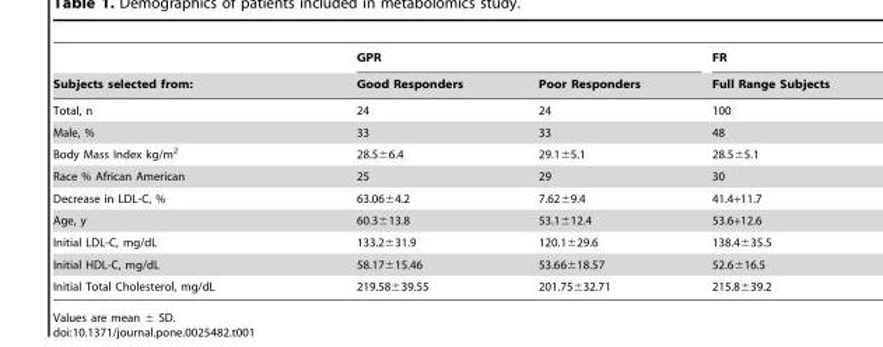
<table><thead><tr><td rowspan="2">Subjects selected from:</td><td colspan="2">GPR</td><td rowspan="2">FR Full Range Subjects</td></tr><tr><td>Good Responders</td><td>Poor Responders</td></tr></thead><tbody><tr><td>Total, n</td><td>24</td><td>24</td><td>100</td></tr><tr><td>Male, %</td><td>33</td><td>33</td><td>48</td></tr><tr><td>Body Mass Index kg/m<sup>2</sup></td><td>28.5±6.4</td><td>29.1±5.1</td><td>28.5±5.1</td></tr><tr><td>Race % African American</td><td>25</td><td>29</td><td>30</td></tr><tr><td>Decrease in LDL-C, %</td><td>63.06±4.2</td><td>7.62±9.4</td><td>41.4+11.7</td></tr><tr><td>Age, y</td><td>60.3±13.8</td><td>53.1±12.4</td><td>53.6+12.6</td></tr><tr><td>Initial LDL-C, mg/dL</td><td>133.2±31.9</td><td>120.1±29.6</td><td>138.4±35.5</td></tr><tr><td>Initial HDL-C, mg/dL</td><td>58.17±15.46</td><td>53.66±18.57</td><td>52.6±16.5</td></tr><tr><td>Initial Total Cholesterol, mg/dL</td><td>219.58±39.55</td><td>201.75±32.71</td><td>215.8±39.2</td></tr></tbody></table>